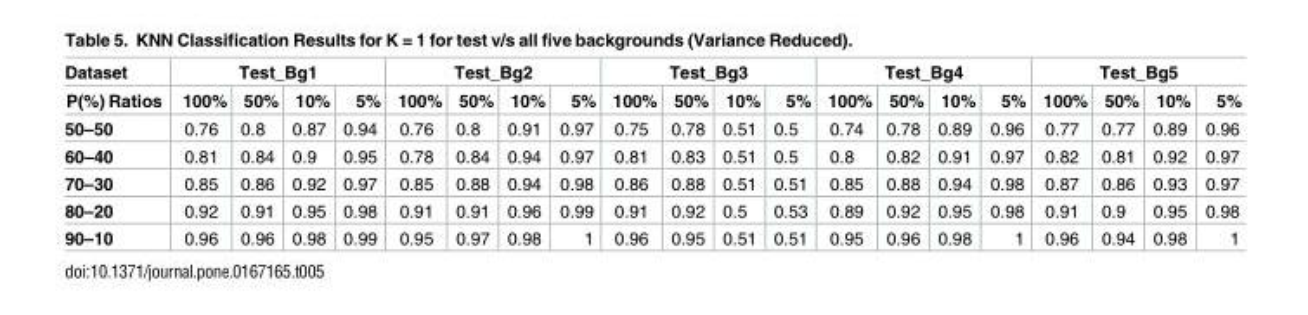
<table><thead><tr><td rowspan="2">Dataset P(%) Ratios</td><td colspan="4">Test_Bg1</td><td colspan="4">Test_Bg2</td><td colspan="4">Test_Bg3</td><td colspan="4">Test_Bg4</td><td colspan="4">Test_Bg5</td></tr><tr><td>100%</td><td>50%</td><td>10%</td><td>5%</td><td>100%</td><td>50%</td><td>10%</td><td>5%</td><td>100%</td><td>50%</td><td>10%</td><td>5%</td><td>100%</td><td>50%</td><td>10%</td><td>5%</td><td>100%</td><td>50%</td><td>10%</td><td>5%</td></tr></thead><tbody><tr><td>50–50</td><td>0.76</td><td>0.8</td><td>0.87</td><td>0.94</td><td>0.76</td><td>0.8</td><td>0.91</td><td>0.97</td><td>0.75</td><td>0.78</td><td>0.51</td><td>0.5</td><td>0.74</td><td>0.78</td><td>0.89</td><td>0.96</td><td>0.77</td><td>0.77</td><td>0.89</td><td>0.96</td></tr><tr><td>60–40</td><td>0.81</td><td>0.84</td><td>0.9</td><td>0.95</td><td>0.78</td><td>0.84</td><td>0.94</td><td>0.97</td><td>0.81</td><td>0.83</td><td>0.51</td><td>0.5</td><td>0.8</td><td>0.82</td><td>0.91</td><td>0.97</td><td>0.82</td><td>0.81</td><td>0.92</td><td>0.97</td></tr><tr><td>70–30</td><td>0.85</td><td>0.86</td><td>0.92</td><td>0.97</td><td>0.85</td><td>0.88</td><td>0.94</td><td>0.98</td><td>0.86</td><td>0.88</td><td>0.51</td><td>0.51</td><td>0.85</td><td>0.88</td><td>0.94</td><td>0.98</td><td>0.87</td><td>0.86</td><td>0.93</td><td>0.97</td></tr><tr><td>80–20</td><td>0.92</td><td>0.91</td><td>0.95</td><td>0.98</td><td>0.91</td><td>0.91</td><td>0.96</td><td>0.99</td><td>0.91</td><td>0.92</td><td>0.5</td><td>0.53</td><td>0.89</td><td>0.92</td><td>0.95</td><td>0.98</td><td>0.91</td><td>0.9</td><td>0.95</td><td>0.98</td></tr><tr><td>90–10</td><td>0.96</td><td>0.96</td><td>0.98</td><td>0.99</td><td>0.95</td><td>0.97</td><td>0.98</td><td>1</td><td>0.96</td><td>0.95</td><td>0.51</td><td>0.51</td><td>0.95</td><td>0.96</td><td>0.98</td><td>1</td><td>0.96</td><td>0.94</td><td>0.98</td><td>1</td></tr></tbody></table>